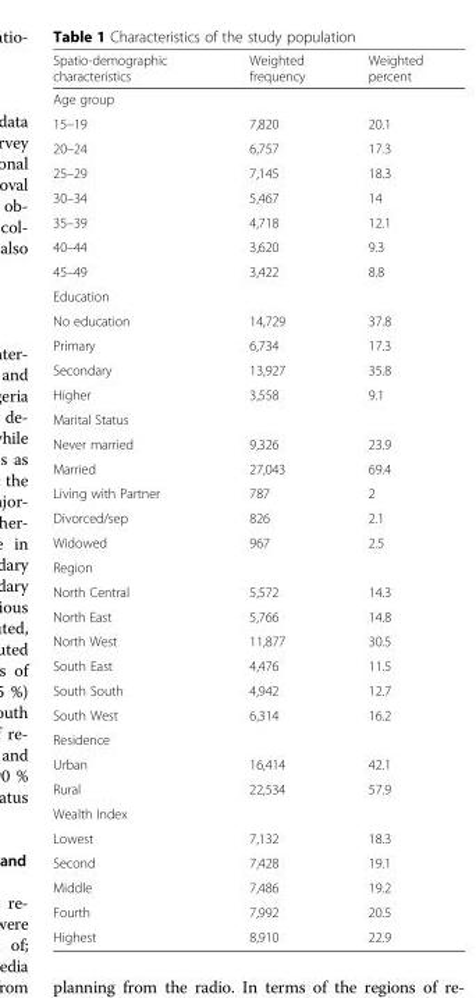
<table><thead><tr><td>Spatio-demographic characteristics</td><td>Weighted frequency</td><td>Weighted percent</td></tr></thead><tbody><tr><td colspan="3">Age group</td></tr><tr><td>15–19</td><td>7,820</td><td>20.1</td></tr><tr><td>20–24</td><td>6,757</td><td>17.3</td></tr><tr><td>25–29</td><td>7,145</td><td>18.3</td></tr><tr><td>30–34</td><td>5,467</td><td>14</td></tr><tr><td>35–39</td><td>4,718</td><td>12.1</td></tr><tr><td>40–44</td><td>3,620</td><td>9.3</td></tr><tr><td>45–49</td><td>3,422</td><td>8.8</td></tr><tr><td colspan="3">Education</td></tr><tr><td>No education</td><td>14,729</td><td>37.8</td></tr><tr><td>Primary</td><td>6,734</td><td>17.3</td></tr><tr><td>Secondary</td><td>13,927</td><td>35.8</td></tr><tr><td>Higher</td><td>3,558</td><td>9.1</td></tr><tr><td colspan="3">Marital Status</td></tr><tr><td>Never married</td><td>9,326</td><td>23.9</td></tr><tr><td>Married</td><td>27,043</td><td>69.4</td></tr><tr><td>Living with Partner</td><td>787</td><td>2</td></tr><tr><td>Divorced/sep</td><td>826</td><td>2.1</td></tr><tr><td>Widowed</td><td>967</td><td>2.5</td></tr><tr><td colspan="3">Region</td></tr><tr><td>North Central</td><td>5,572</td><td>14.3</td></tr><tr><td>North East</td><td>5,766</td><td>14.8</td></tr><tr><td>North West</td><td>11,877</td><td>30.5</td></tr><tr><td>South East</td><td>4,476</td><td>11.5</td></tr><tr><td>South South</td><td>4,942</td><td>12.7</td></tr><tr><td>South West</td><td>6,314</td><td>16.2</td></tr><tr><td colspan="3">Residence</td></tr><tr><td>Urban</td><td>16,414</td><td>42.1</td></tr><tr><td>Rural</td><td>22,534</td><td>57.9</td></tr><tr><td colspan="3">Wealth Index</td></tr><tr><td>Lowest</td><td>7,132</td><td>18.3</td></tr><tr><td>Second</td><td>7,428</td><td>19.1</td></tr><tr><td>Middle</td><td>7,486</td><td>19.2</td></tr><tr><td>Fourth</td><td>7,992</td><td>20.5</td></tr><tr><td>Highest</td><td>8,910</td><td>22.9</td></tr></tbody></table>